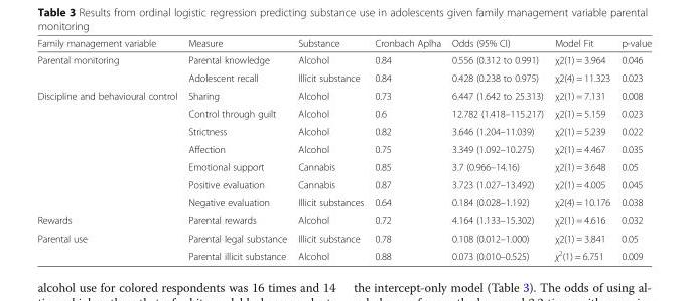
<table><thead><tr><td>Family management variable</td><td>Measure</td><td>Substance</td><td>Cronbach Aplha</td><td>Odds (95% CI)</td><td>Model Fit</td><td>p-value</td></tr></thead><tbody><tr><td rowspan="2">Parental monitoring</td><td>Parental knowledge</td><td>Alcohol</td><td>0.84</td><td>0.556 (0.312 to 0.991)</td><td>χ2(1) = 3.964</td><td>0.046</td></tr><tr><td>Adolescent recall</td><td>Illicit substance</td><td>0.84</td><td>0.428 (0.238 to 0.975)</td><td>χ2(4) = 11.323</td><td>0.023</td></tr><tr><td rowspan="7">Discipline and behavioural control</td><td>Sharing</td><td>Alcohol</td><td>0.73</td><td>6.447 (1.642 to 25.313)</td><td>χ2(1) = 7.131</td><td>0.008</td></tr><tr><td>Control through guilt</td><td>Alcohol</td><td>0.6</td><td>12.782 (1.418–115.217)</td><td>χ2(1) = 5.159</td><td>0.023</td></tr><tr><td>Strictness</td><td>Alcohol</td><td>0.82</td><td>3.646 (1.204–11.039)</td><td>χ2(1) = 5.239</td><td>0.022</td></tr><tr><td>Affection</td><td>Alcohol</td><td>0.75</td><td>3.349 (1.092–10.275)</td><td>χ2(1) = 4.467</td><td>0.035</td></tr><tr><td>Emotional support</td><td>Cannabis</td><td>0.85</td><td>3.7 (0.966–14.16)</td><td>χ2(1) = 3.648</td><td>0.05</td></tr><tr><td>Positive evaluation</td><td>Cannabis</td><td>0.87</td><td>3.723 (1.027–13.492)</td><td>χ2(1) = 4.005</td><td>0.045</td></tr><tr><td>Negative evaluation</td><td>Illicit substances</td><td>0.64</td><td>0.184 (0.028–1.192)</td><td>χ2(4) = 10.176</td><td>0.038</td></tr><tr><td>Rewards</td><td>Parental rewards</td><td>Alcohol</td><td>0.72</td><td>4.164 (1.133–15.302)</td><td>χ2(1) = 4.616</td><td>0.032</td></tr><tr><td rowspan="2">Parental use</td><td>Parental legal substance</td><td>Illicit substance</td><td>0.78</td><td>0.108 (0.012–1.000)</td><td>χ2(1) = 3.841</td><td>0.05</td></tr><tr><td>Parental illicit substance</td><td>Alcohol</td><td>0.88</td><td>0.073 (0.010–0.525)</td><td>χ<sup>2</sup>(1) = 6.751</td><td>0.009</td></tr></tbody></table>